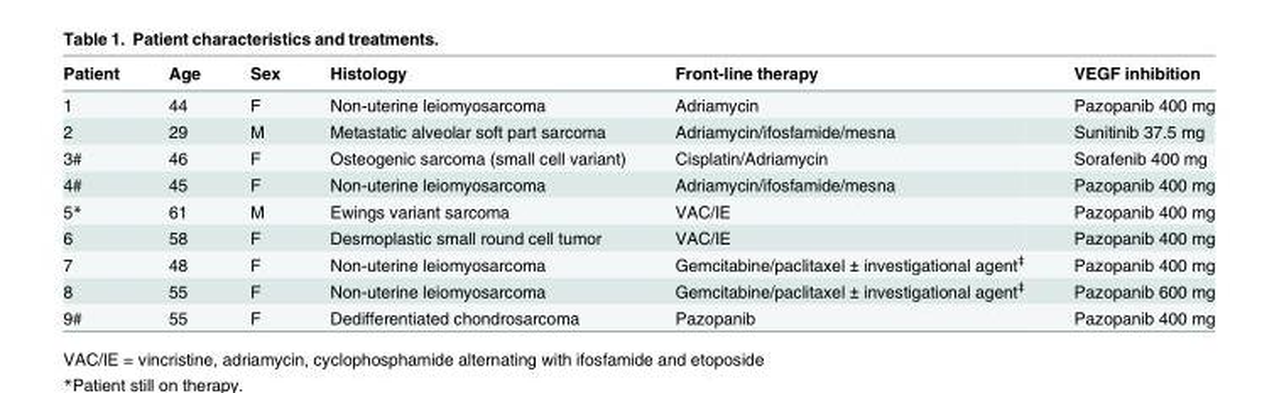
<table><thead><tr><td>Patient</td><td>Age</td><td>Sex</td><td>Histology</td><td>Front-line therapy</td><td>VEGF inhibition</td></tr></thead><tbody><tr><td>1</td><td>44</td><td>F</td><td>Non-uterine leiomyosarcoma</td><td>Adriamycin</td><td>Pazopanib 400 mg</td></tr><tr><td>2</td><td>29</td><td>M</td><td>Metastatic alveolar soft part sarcoma</td><td>Adriamycin/ifosfamide/mesna</td><td>Sunitinib 37.5 mg</td></tr><tr><td>3#</td><td>46</td><td>F</td><td>Osteogenic sarcoma (small cell variant)</td><td>Cisplatin/Adriamycin</td><td>Sorafenib 400 mg</td></tr><tr><td>4#</td><td>45</td><td>F</td><td>Non-uterine leiomyosarcoma</td><td>Adriamycin/ifosfamide/mesna</td><td>Pazopanib 400 mg</td></tr><tr><td>5*</td><td>61</td><td>M</td><td>Ewings variant sarcoma</td><td>VAC/IE</td><td>Pazopanib 400 mg</td></tr><tr><td>6</td><td>58</td><td>F</td><td>Desmoplastic small round cell tumor</td><td>VAC/IE</td><td>Pazopanib 400 mg</td></tr><tr><td>7</td><td>48</td><td>F</td><td>Non-uterine leiomyosarcoma</td><td>Gemcitabine/paclitaxel ± investigational agent‡</td><td>Pazopanib 400 mg</td></tr><tr><td>8</td><td>55</td><td>F</td><td>Non-uterine leiomyosarcoma</td><td>Gemcitabine/paclitaxel ± investigational agent‡</td><td>Pazopanib 600 mg</td></tr><tr><td>9#</td><td>55</td><td>F</td><td>Dedifferentiated chondrosarcoma</td><td>Pazopanib</td><td>Pazopanib 400 mg</td></tr></tbody></table>